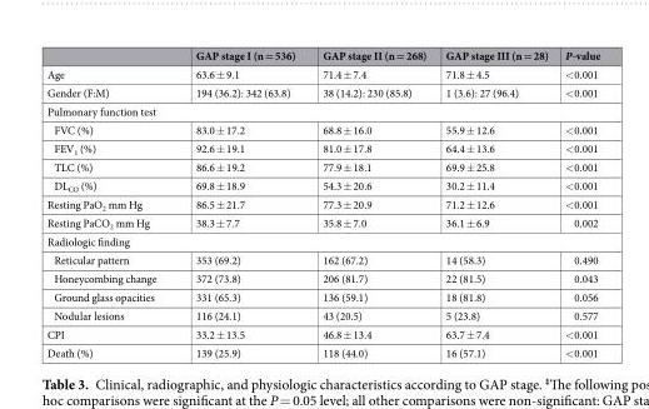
<table><thead><tr><td></td><td>GAP stage I (n = 536)</td><td>GAP stage II (n = 268)</td><td>GAP stage III (n = 28)</td><td>P-value</td></tr></thead><tbody><tr><td>Age</td><td>63.6 ± 9.1</td><td>71.4 ± 7.4</td><td>71.8 ± 4.5</td><td>&lt;0.001</td></tr><tr><td>Gender (F:M)</td><td>194 (36.2): 342 (63.8)</td><td>38 (14.2): 230 (85.8)</td><td>1 (3.6): 27 (96.4)</td><td>&lt;0.001</td></tr><tr><td colspan="5">Pulmonary function test</td></tr><tr><td>FVC (%)</td><td>83.0 ± 17.2</td><td>68.8 ± 16.0</td><td>55.9 ± 12.6</td><td>&lt;0.001</td></tr><tr><td>FEV<sub>1</sub> (%)</td><td>92.6 ± 19.1</td><td>81.0 ± 17.8</td><td>64.4 ± 13.6</td><td>&lt;0.001</td></tr><tr><td>TLC (%)</td><td>86.6 ± 19.2</td><td>77.9 ± 18.1</td><td>69.9 ± 25.8</td><td>&lt;0.001</td></tr><tr><td>DL<sub>CO</sub> (%)</td><td>69.8 ± 18.9</td><td>54.3 ± 20.6</td><td>30.2 ± 11.4</td><td>&lt;0.001</td></tr><tr><td>Resting PaO<sub>2</sub> mm Hg</td><td>86.5 ± 21.7</td><td>77.3 ± 20.9</td><td>71.2 ± 12.6</td><td>&lt;0.001</td></tr><tr><td>Resting PaCO<sub>2</sub> mm Hg</td><td>38.3 ± 7.7</td><td>35.8 ± 7.0</td><td>36.1 ± 6.9</td><td>0.002</td></tr><tr><td colspan="5">Radiologic finding</td></tr><tr><td>Reticular pattern</td><td>353 (69.2)</td><td>162 (67.2)</td><td>14 (58.3)</td><td>0.490</td></tr><tr><td>Honeycombing change</td><td>372 (73.8)</td><td>206 (81.7)</td><td>22 (81.5)</td><td>0.043</td></tr><tr><td>Ground glass opacities</td><td>331 (65.3)</td><td>136 (59.1)</td><td>18 (81.8)</td><td>0.056</td></tr><tr><td>Nodular lesions</td><td>116 (24.1)</td><td>43 (20.5)</td><td>5 (23.8)</td><td>0.577</td></tr><tr><td>CPI</td><td>33.2 ± 13.5</td><td>46.8 ± 13.4</td><td>63.7 ± 7.4</td><td>&lt;0.001</td></tr><tr><td>Death (%)</td><td>139 (25.9)</td><td>118 (44.0)</td><td>16 (57.1)</td><td>&lt;0.001</td></tr></tbody></table>